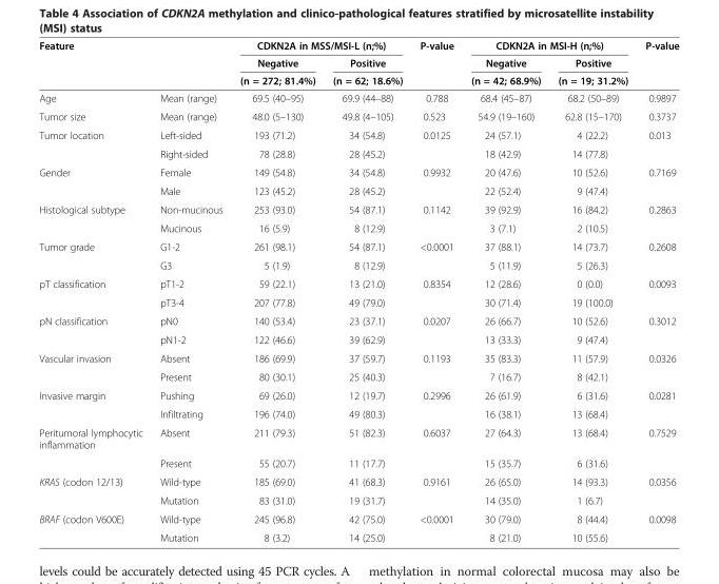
<table><thead><tr><td rowspan="3">Feature</td><td rowspan="3"></td><td colspan="2">CDKN2A in MSS/MSI-L (n;%)</td><td rowspan="3">P-value</td><td colspan="2">CDKN2A in MSI-H (n;%)</td><td rowspan="3">P-value</td></tr><tr><td rowspan="2">Negative (n = 272; 81.4%)</td><td rowspan="2">Positive (n = 62; 18.6%)</td><td rowspan="2">Negative (n = 42; 68.9%)</td><td rowspan="2">Positive (n = 19; 31.2%)</td></tr><tr></tr></thead><tbody><tr><td>Age</td><td>Mean (range)</td><td>69.5 (40–95)</td><td>69.9 (44–88)</td><td>0.788</td><td>68.4 (45–87)</td><td>68.2 (50–89)</td><td>0.9897</td></tr><tr><td>Tumor size</td><td>Mean (range)</td><td>48.0 (5–130)</td><td>49.8 (4–105)</td><td>0.523</td><td>54.9 (19–160)</td><td>62.8 (15–170)</td><td>0.3737</td></tr><tr><td rowspan="2">Tumor location</td><td>Left-sided</td><td>193 (71.2)</td><td>34 (54.8)</td><td>0.0125</td><td>24 (57.1)</td><td>4 (22.2)</td><td>0.013</td></tr><tr><td>Right-sided</td><td>78 (28.8)</td><td>28 (45.2)</td><td></td><td>18 (42.9)</td><td>14 (77.8)</td><td></td></tr><tr><td rowspan="2">Gender</td><td>Female</td><td>149 (54.8)</td><td>34 (54.8)</td><td>0.9932</td><td>20 (47.6)</td><td>10 (52.6)</td><td>0.7169</td></tr><tr><td>Male</td><td>123 (45.2)</td><td>28 (45.2)</td><td></td><td>22 (52.4)</td><td>9 (47.4)</td><td></td></tr><tr><td rowspan="2">Histological subtype</td><td>Non-mucinous</td><td>253 (93.0)</td><td>54 (87.1)</td><td>0.1142</td><td>39 (92.9)</td><td>16 (84.2)</td><td>0.2863</td></tr><tr><td>Mucinous</td><td>16 (5.9)</td><td>8 (12.9)</td><td></td><td>3 (7.1)</td><td>2 (10.5)</td><td></td></tr><tr><td rowspan="2">Tumor grade</td><td>G1-2</td><td>261 (98.1)</td><td>54 (87.1)</td><td>&lt;0.0001</td><td>37 (88.1)</td><td>14 (73.7)</td><td>0.2608</td></tr><tr><td>G3</td><td>5 (1.9)</td><td>8 (12.9)</td><td></td><td>5 (11.9)</td><td>5 (26.3)</td><td></td></tr><tr><td rowspan="2">pT classification</td><td>pT1-2</td><td>59 (22.1)</td><td>13 (21.0)</td><td>0.8354</td><td>12 (28.6)</td><td>0 (0.0)</td><td>0.0093</td></tr><tr><td>pT3-4</td><td>207 (77.8)</td><td>49 (79.0)</td><td></td><td>30 (71.4)</td><td>19 (100.0)</td><td></td></tr><tr><td rowspan="2">pN classification</td><td>pN0</td><td>140 (53.4)</td><td>23 (37.1)</td><td>0.0207</td><td>26 (66.7)</td><td>10 (52.6)</td><td>0.3012</td></tr><tr><td>pN1-2</td><td>122 (46.6)</td><td>39 (62.9)</td><td></td><td>13 (33.3)</td><td>9 (47.4)</td><td></td></tr><tr><td rowspan="2">Vascular invasion</td><td>Absent</td><td>186 (69.9)</td><td>37 (59.7)</td><td>0.1193</td><td>35 (83.3)</td><td>11 (57.9)</td><td>0.0326</td></tr><tr><td>Present</td><td>80 (30.1)</td><td>25 (40.3)</td><td></td><td>7 (16.7)</td><td>8 (42.1)</td><td></td></tr><tr><td rowspan="2">Invasive margin</td><td>Pushing</td><td>69 (26.0)</td><td>12 (19.7)</td><td>0.2996</td><td>26 (61.9)</td><td>6 (31.6)</td><td>0.0281</td></tr><tr><td>Infiltrating</td><td>196 (74.0)</td><td>49 (80.3)</td><td></td><td>16 (38.1)</td><td>13 (68.4)</td><td></td></tr><tr><td rowspan="2">Peritumoral lymphocytic inflammation</td><td>Absent</td><td>211 (79.3)</td><td>51 (82.3)</td><td>0.6037</td><td>27 (64.3)</td><td>13 (68.4)</td><td>0.7529</td></tr><tr><td>Present</td><td>55 (20.7)</td><td>11 (17.7)</td><td></td><td>15 (35.7)</td><td>6 (31.6)</td><td></td></tr><tr><td rowspan="2">KRAS (codon 12/13)</td><td>Wild-type</td><td>185 (69.0)</td><td>41 (68.3)</td><td>0.9161</td><td>26 (65.0)</td><td>14 (93.3)</td><td>0.0356</td></tr><tr><td>Mutation</td><td>83 (31.0)</td><td>19 (31.7)</td><td></td><td>14 (35.0)</td><td>1 (6.7)</td><td></td></tr><tr><td rowspan="2">BRAF (codon V600E)</td><td>Wild-type</td><td>245 (96.8)</td><td>42 (75.0)</td><td>&lt;0.0001</td><td>30 (79.0)</td><td>8 (44.4)</td><td>0.0098</td></tr><tr><td>Mutation</td><td>8 (3.2)</td><td>14 (25.0)</td><td></td><td>8 (21.0)</td><td>10 (55.6)</td><td></td></tr></tbody></table>